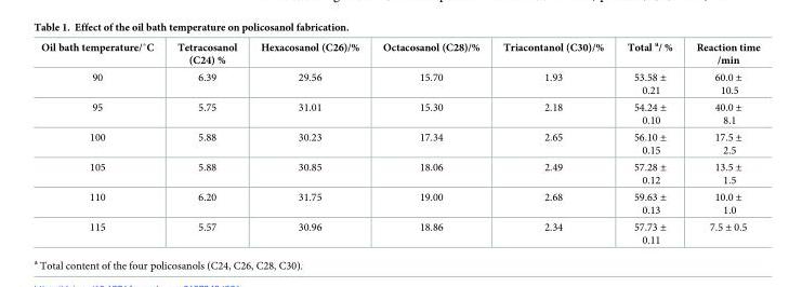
<table><thead><tr><td>Oil bath temperature/˚C</td><td>Tetracosanol (C24) %</td><td>Hexacosanol (C26)/%</td><td>Octacosanol (C28)/%</td><td>Triacontanol (C30)/%</td><td>Total <sup>a</sup>/ %</td><td>Reaction time /min</td></tr></thead><tbody><tr><td>90</td><td>6.39</td><td>29.56</td><td>15.70</td><td>1.93</td><td>53.58 ± 0.21</td><td>60.0 ± 10.5</td></tr><tr><td>95</td><td>5.75</td><td>31.01</td><td>15.30</td><td>2.18</td><td>54.24 ± 0.10</td><td>40.0 ± 8.1</td></tr><tr><td>100</td><td>5.88</td><td>30.23</td><td>17.34</td><td>2.65</td><td>56.10 ± 0.15</td><td>17.5 ± 2.5</td></tr><tr><td>105</td><td>5.88</td><td>30.85</td><td>18.06</td><td>2.49</td><td>57.28 ± 0.12</td><td>13.5 ± 1.5</td></tr><tr><td>110</td><td>6.20</td><td>31.75</td><td>19.00</td><td>2.68</td><td>59.63 ± 0.13</td><td>10.0 ± 1.0</td></tr><tr><td>115</td><td>5.57</td><td>30.96</td><td>18.86</td><td>2.34</td><td>57.73 ± 0.11</td><td>7.5 ± 0.5</td></tr></tbody></table>